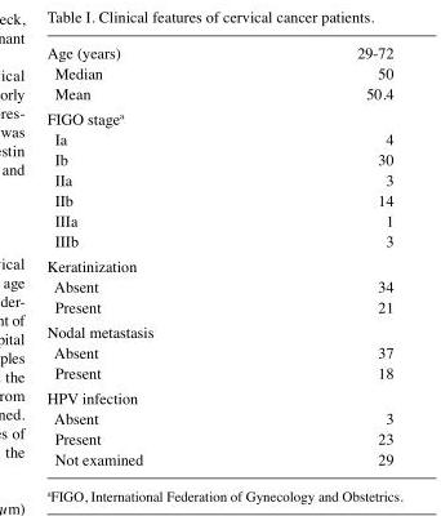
<table><tbody><tr><td>Age (years)</td><td>29-72</td></tr><tr><td>Median</td><td>50</td></tr><tr><td>Mean</td><td>50.4</td></tr><tr><td colspan="2">FIGO stage<sup>a</sup></td></tr><tr><td>Ia</td><td>4</td></tr><tr><td>Ib</td><td>30</td></tr><tr><td>IIa</td><td>3</td></tr><tr><td>IIb</td><td>14</td></tr><tr><td>IIIa</td><td>1</td></tr><tr><td>IIIb</td><td>3</td></tr><tr><td colspan="2">Keratinization</td></tr><tr><td>Absent</td><td>34</td></tr><tr><td>Present</td><td>21</td></tr><tr><td colspan="2">Nodal metastasis</td></tr><tr><td>Absent</td><td>37</td></tr><tr><td>Present</td><td>18</td></tr><tr><td colspan="2">HPV infection</td></tr><tr><td>Absent</td><td>3</td></tr><tr><td>Present</td><td>23</td></tr><tr><td>Not examined</td><td>29</td></tr></tbody></table>